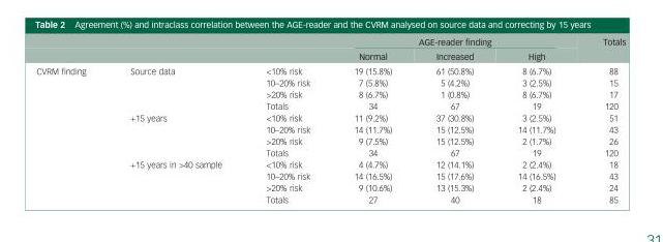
<table><thead><tr><td rowspan="2"></td><td rowspan="2"></td><td rowspan="2"></td><td colspan="3">AGE-reader finding</td><td rowspan="2">Totals</td></tr><tr><td>Normal</td><td>Increased</td><td>High</td></tr></thead><tbody><tr><td rowspan="12">CVRM finding</td><td rowspan="4">Source data</td><td>&lt;10% risk</td><td>19 (15.8%)</td><td>61 (50.8%)</td><td>8 (6.7%)</td><td>88</td></tr><tr><td>10–20% risk</td><td>7 (5.8%)</td><td>5 (4.2%)</td><td>3 (2.5%)</td><td>15</td></tr><tr><td>&gt;20% risk</td><td>8 (6.7%)</td><td>1 (0.8%)</td><td>8 (6.7%)</td><td>17</td></tr><tr><td>Totals</td><td>34</td><td>67</td><td>19</td><td>120</td></tr><tr><td rowspan="4">+15 years</td><td>&lt;10% risk</td><td>11 (9.2%)</td><td>37 (30.8%)</td><td>3 (2.5%)</td><td>51</td></tr><tr><td>10–20% risk</td><td>14 (11.7%)</td><td>15 (12.5%)</td><td>14 (11.7%)</td><td>43</td></tr><tr><td>&gt;20% risk</td><td>9 (7.5%)</td><td>15 (12.5%)</td><td>2 (1.7%)</td><td>26</td></tr><tr><td>Totals</td><td>34</td><td>67</td><td>19</td><td>120</td></tr><tr><td rowspan="4">+15 years in &gt;40 sample</td><td>&lt;10% risk</td><td>4 (4.7%)</td><td>12 (14.1%)</td><td>2 (2.4%)</td><td>18</td></tr><tr><td>10–20% risk</td><td>14 (16.5%)</td><td>15 (17.6%)</td><td>14 (16.5%)</td><td>43</td></tr><tr><td>&gt;20% risk</td><td>9 (10.6%)</td><td>13 (15.3%)</td><td>2 (2.4%)</td><td>24</td></tr><tr><td>Totals</td><td>27</td><td>40</td><td>18</td><td>85</td></tr></tbody></table>